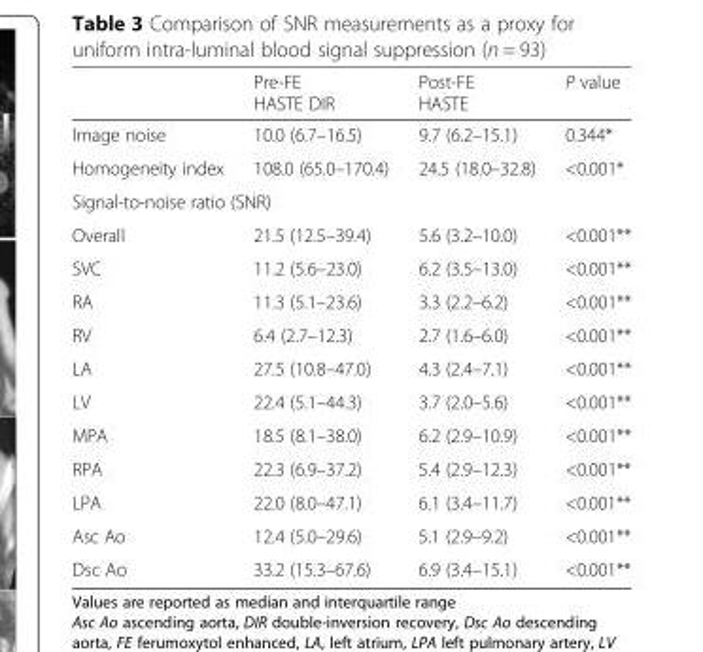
<table><thead><tr><td></td><td>Pre-FE HASTE DIR</td><td>Post-FE HASTE</td><td>P value</td></tr></thead><tbody><tr><td>Image noise</td><td>10.0 (6.7–16.5)</td><td>9.7 (6.2–15.1)</td><td>0.344*</td></tr><tr><td>Homogeneity index</td><td>108.0 (65.0–170.4)</td><td>24.5 (18.0–32.8)</td><td>&lt;0.001*</td></tr><tr><td colspan="4">Signal-to-noise ratio (SNR)</td></tr><tr><td>Overall</td><td>21.5 (12.5–39.4)</td><td>5.6 (3.2–10.0)</td><td>&lt;0.001**</td></tr><tr><td>SVC</td><td>11.2 (5.6–23.0)</td><td>6.2 (3.5–13.0)</td><td>&lt;0.001**</td></tr><tr><td>RA</td><td>11.3 (5.1–23.6)</td><td>3.3 (2.2–6.2)</td><td>&lt;0.001**</td></tr><tr><td>RV</td><td>6.4 (2.7–12.3)</td><td>2.7 (1.6–6.0)</td><td>&lt;0.001**</td></tr><tr><td>LA</td><td>27.5 (10.8–47.0)</td><td>4.3 (2.4–7.1)</td><td>&lt;0.001**</td></tr><tr><td>LV</td><td>22.4 (5.1–44.3)</td><td>3.7 (2.0–5.6)</td><td>&lt;0.001**</td></tr><tr><td>MPA</td><td>18.5 (8.1–38.0)</td><td>6.2 (2.9–10.9)</td><td>&lt;0.001**</td></tr><tr><td>RPA</td><td>22.3 (6.9–37.2)</td><td>5.4 (2.9–12.3)</td><td>&lt;0.001**</td></tr><tr><td>LPA</td><td>22.0 (8.0–47.1)</td><td>6.1 (3.4–11.7)</td><td>&lt;0.001**</td></tr><tr><td>Asc Ao</td><td>12.4 (5.0–29.6)</td><td>5.1 (2.9–9.2)</td><td>&lt;0.001**</td></tr><tr><td>Dsc Ao</td><td>33.2 (15.3–67.6)</td><td>6.9 (3.4–15.1)</td><td>&lt;0.001**</td></tr></tbody></table>